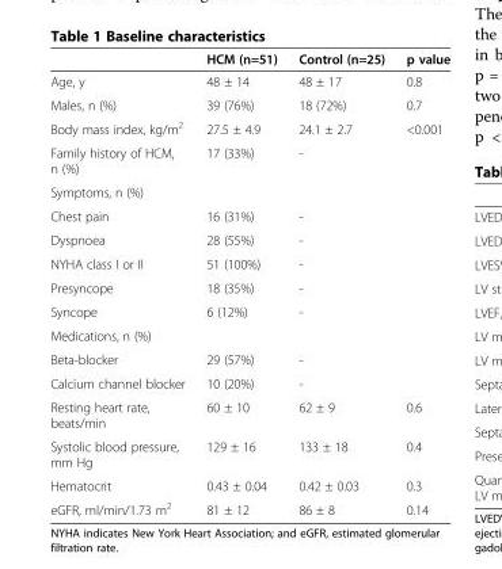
<table><thead><tr><td></td><td>HCM (n=51)</td><td>Control (n=25)</td><td>p value</td></tr></thead><tbody><tr><td>Age, y</td><td>48 ± 14</td><td>48 ± 17</td><td>0.8</td></tr><tr><td>Males, n (%)</td><td>39 (76%)</td><td>18 (72%)</td><td>0.7</td></tr><tr><td>Body mass index, kg/m<sup>2</sup></td><td>27.5 ± 4.9</td><td>24.1 ± 2.7</td><td>&lt;0.001</td></tr><tr><td>Family history of HCM, n (%)</td><td>17 (33%)</td><td>-</td><td></td></tr><tr><td colspan="4">Symptoms, n (%)</td></tr><tr><td>Chest pain</td><td>16 (31%)</td><td>-</td><td></td></tr><tr><td>Dyspnoea</td><td>28 (55%)</td><td>-</td><td></td></tr><tr><td>NYHA class I or II</td><td>51 (100%)</td><td>-</td><td></td></tr><tr><td>Presyncope</td><td>18 (35%)</td><td>-</td><td></td></tr><tr><td>Syncope</td><td>6 (12%)</td><td>-</td><td></td></tr><tr><td colspan="4">Medications, n (%)</td></tr><tr><td>Beta-blocker</td><td>29 (57%)</td><td>-</td><td></td></tr><tr><td>Calcium channel blocker</td><td>10 (20%)</td><td>-</td><td></td></tr><tr><td>Resting heart rate, beats/min</td><td>60 ± 10</td><td>62 ± 9</td><td>0.6</td></tr><tr><td>Systolic blood pressure, mm Hg</td><td>129 ± 16</td><td>133 ± 18</td><td>0.4</td></tr><tr><td>Hematocrit</td><td>0.43 ± 0.04</td><td>0.42 ± 0.03</td><td>0.3</td></tr><tr><td>eGFR, ml/min/1.73 m<sup>2</sup></td><td>81 ± 12</td><td>86 ± 8</td><td>0.14</td></tr></tbody></table>